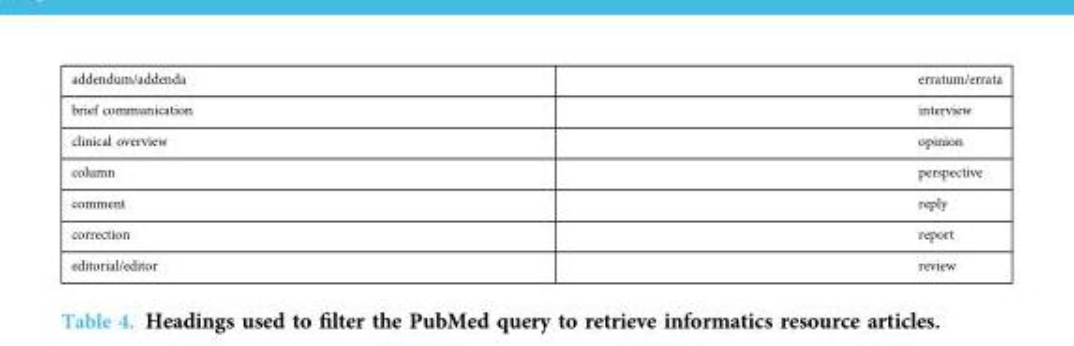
<table><tbody><tr><td>addendum/addenda</td><td>erratum/errata</td></tr><tr><td>brief communication</td><td>interview</td></tr><tr><td>clinical overview</td><td>opinion</td></tr><tr><td>column</td><td>perspective</td></tr><tr><td>comment</td><td>reply</td></tr><tr><td>correction</td><td>report</td></tr><tr><td>editorial/editor</td><td>review</td></tr></tbody></table>